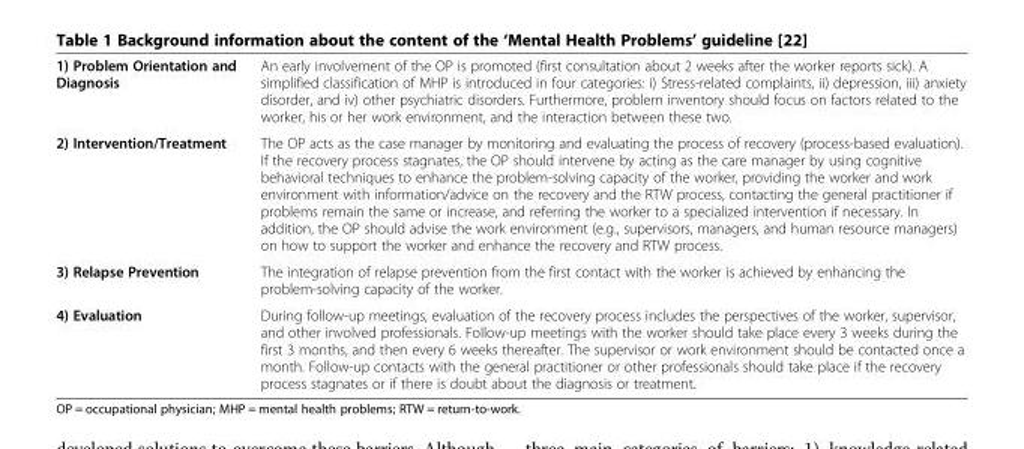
<table><tbody><tr><td>1) Problem Orientation and Diagnosis</td><td>An early involvement of the OP is promoted (first consultation about 2 weeks after the worker reports sick). A simplified classification of MHP is introduced in four categories: i) Stress-related complaints, ii) depression, iii) anxiety disorder, and iv) other psychiatric disorders. Furthermore, problem inventory should focus on factors related to the worker, his or her work environment, and the interaction between these two.</td></tr><tr><td>2) Intervention/Treatment</td><td>The OP acts as the case manager by monitoring and evaluating the process of recovery (process-based evaluation). If the recovery process stagnates, the OP should intervene by acting as the care manager by using cognitive behavioral techniques to enhance the problem-solving capacity of the worker, providing the worker and work environment with information/advice on the recovery and the RTW process, contacting the general practitioner if problems remain the same or increase, and referring the worker to a specialized intervention if necessary. In addition, the OP should advise the work environment (e.g., supervisors, managers, and human resource managers) on how to support the worker and enhance the recovery and RTW process.</td></tr><tr><td>3) Relapse Prevention</td><td>The integration of relapse prevention from the first contact with the worker is achieved by enhancing the problem-solving capacity of the worker.</td></tr><tr><td>4) Evaluation</td><td>During follow-up meetings, evaluation of the recovery process includes the perspectives of the worker, supervisor, and other involved professionals. Follow-up meetings with the worker should take place every 3 weeks during the first 3 months, and then every 6 weeks thereafter. The supervisor or work environment should be contacted once a month. Follow-up contacts with the general practitioner or other professionals should take place if the recovery process stagnates or if there is doubt about the diagnosis or treatment.</td></tr></tbody></table>